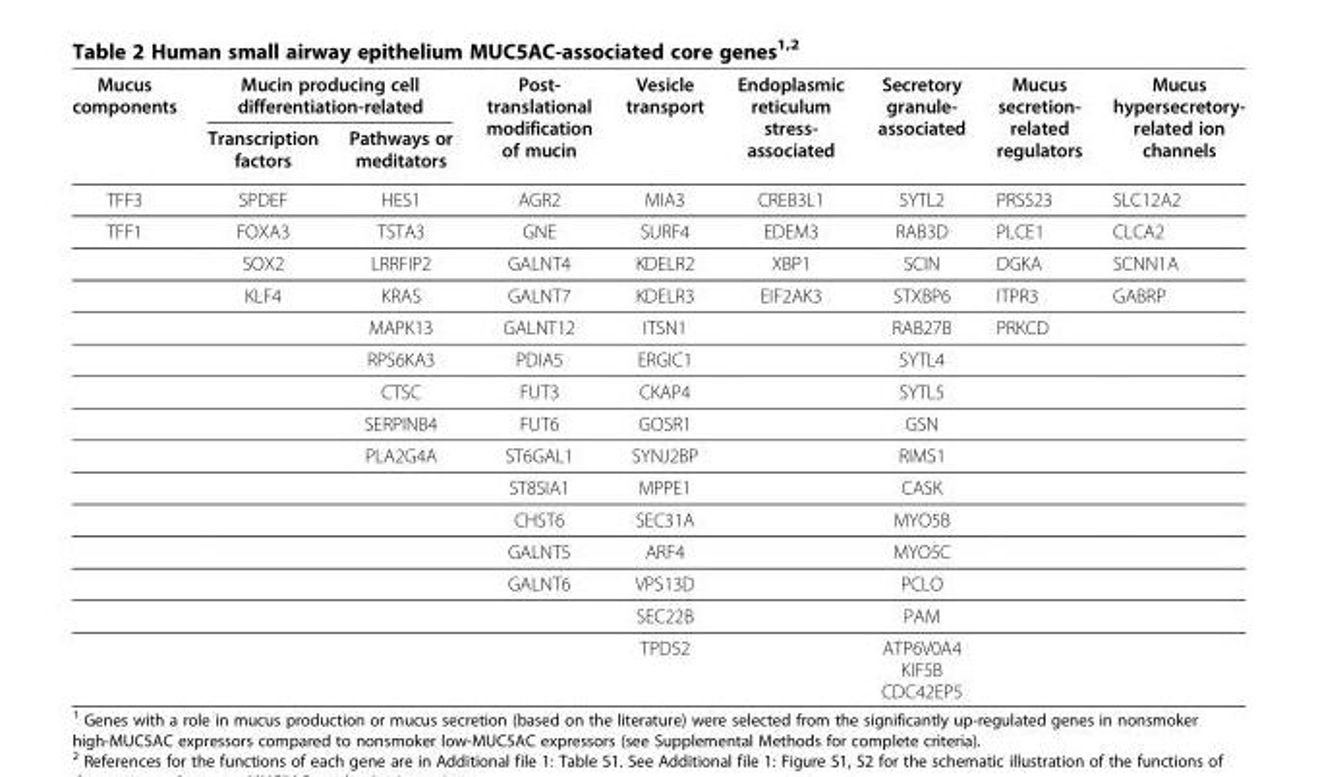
<table><thead><tr><td rowspan="2">Mucus components</td><td colspan="2">Mucin producing cell differentiation-related</td><td rowspan="2">Post- translational modification of mucin</td><td rowspan="2">Vesicle transport</td><td rowspan="2">Endoplasmic reticulum stress- associated</td><td rowspan="2">Secretory granule- associated</td><td rowspan="2">Mucus secretion- related regulators</td><td rowspan="2">Mucus hypersecretory- related ion channels</td></tr><tr><td>Transcription factors</td><td>Pathways or meditators</td></tr></thead><tbody><tr><td>TFF3</td><td>SPDEF</td><td>HES1</td><td>AGR2</td><td>MIA3</td><td>CREB3L1</td><td>SYTL2</td><td>PRSS23</td><td>SLC12A2</td></tr><tr><td rowspan="14">TFF1</td><td>FOXA3</td><td>TSTA3</td><td>GNE</td><td>SURF4</td><td>EDEM3</td><td>RAB3D</td><td>PLCE1</td><td>CLCA2</td></tr><tr><td>SOX2</td><td>LRRFIP2</td><td>GALNT4</td><td>KDELR2</td><td>XBP1</td><td>SCIN</td><td>DGKA</td><td>SCNN1A</td></tr><tr><td>KLF4</td><td>KRAS</td><td>GALNT7</td><td>KDELR3</td><td>EIF2AK3</td><td>STXBP6</td><td>ITPR3</td><td>GABRP</td></tr><tr><td></td><td>MAPK13</td><td>GALNT12</td><td>ITSN1</td><td></td><td>RAB27B</td><td>PRKCD</td><td></td></tr><tr><td></td><td>RPS6KA3</td><td>PDIA5</td><td>ERGIC1</td><td></td><td>SYTL4</td><td></td><td></td></tr><tr><td></td><td>CTSC</td><td>FUT3</td><td>CKAP4</td><td></td><td>SYTL5</td><td></td><td></td></tr><tr><td></td><td>SERPINB4</td><td>FUT6</td><td>GOSR1</td><td></td><td>GSN</td><td></td><td></td></tr><tr><td></td><td>PLA2G4A</td><td>ST6GAL1</td><td>SYNJ2BP</td><td></td><td>RIMS1</td><td></td><td></td></tr><tr><td></td><td></td><td>ST8SIA1</td><td>MPPE1</td><td></td><td>CASK</td><td></td><td></td></tr><tr><td></td><td></td><td>CHST6</td><td>SEC31A</td><td></td><td>MYO5B</td><td></td><td></td></tr><tr><td></td><td></td><td>GALNT5</td><td>ARF4</td><td></td><td>MYO5C</td><td></td><td></td></tr><tr><td></td><td></td><td>GALNT6</td><td>VPS13D</td><td></td><td>PCLO</td><td></td><td></td></tr><tr><td></td><td></td><td></td><td>SEC22B</td><td></td><td>PAM</td><td></td><td></td></tr><tr><td></td><td></td><td></td><td>TPD52</td><td></td><td>ATP6V0A4 KIF5B CDC42EP5</td><td></td><td></td></tr></tbody></table>